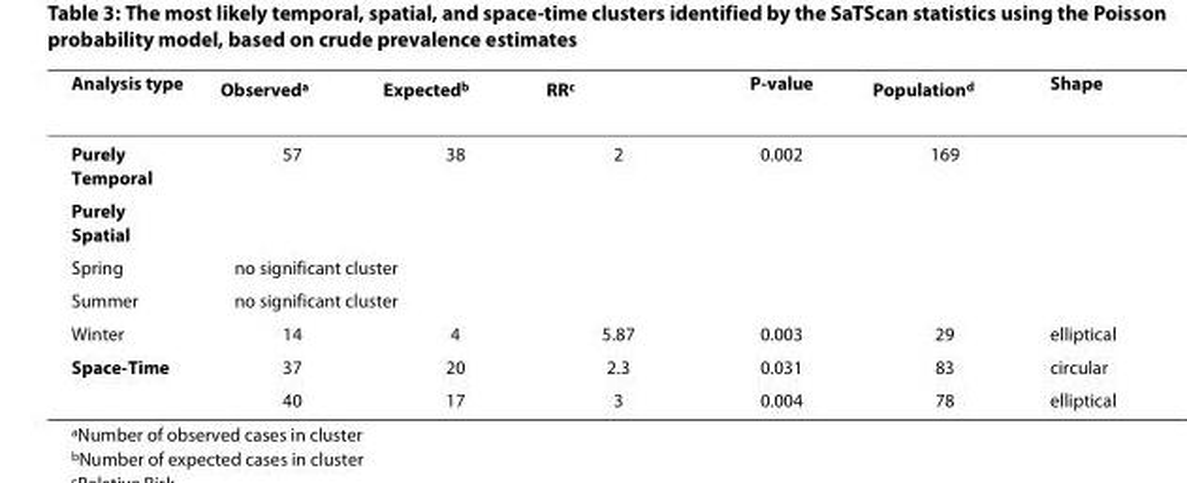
<table><thead><tr><td>Analysis type</td><td>Observed<sup>a</sup></td><td>Expected<sup>b</sup></td><td>RR<sup>c</sup></td><td>P-value</td><td>Population<sup>d</sup></td><td>Shape</td></tr></thead><tbody><tr><td>Purely Temporal</td><td>57</td><td>38</td><td>2</td><td>0.002</td><td>169</td><td></td></tr><tr><td colspan="7">Purely Spatial</td></tr><tr><td>Spring</td><td colspan="5">no significant cluster</td><td></td></tr><tr><td>Summer</td><td colspan="5">no significant cluster</td><td></td></tr><tr><td>Winter</td><td>14</td><td>4</td><td>5.87</td><td>0.003</td><td>29</td><td>elliptical</td></tr><tr><td rowspan="2">Space-Time</td><td>37</td><td>20</td><td>2.3</td><td>0.031</td><td>83</td><td>circular</td></tr><tr><td>40</td><td>17</td><td>3</td><td>0.004</td><td>78</td><td>elliptical</td></tr></tbody></table>